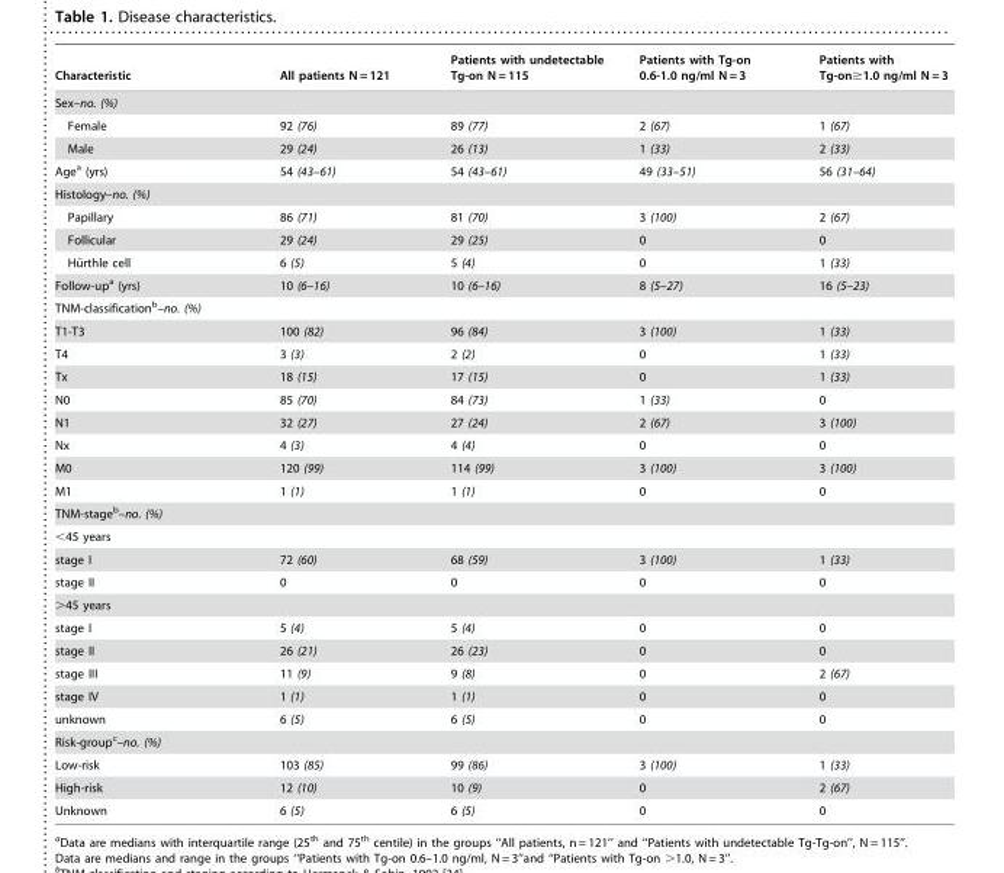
<table><thead><tr><td>Characteristic</td><td>All patients N = 121</td><td>Patients with undetectable Tg-on N = 115</td><td>Patients with Tg-on 0.6-1.0 ng/ml N = 3</td><td>Patients with Tg-on≥1.0 ng/ml N = 3</td></tr></thead><tbody><tr><td colspan="5">Sex–no. (%)</td></tr><tr><td>Female</td><td>92 (76)</td><td>89 (77)</td><td>2 (67)</td><td>1 (67)</td></tr><tr><td>Male</td><td>29 (24)</td><td>26 (13)</td><td>1 (33)</td><td>2 (33)</td></tr><tr><td>Age<sup>a</sup> (yrs)</td><td>54 (43–61)</td><td>54 (43–61)</td><td>49 (33–51)</td><td>56 (31–64)</td></tr><tr><td colspan="5">Histology–no. (%)</td></tr><tr><td>Papillary</td><td>86 (71)</td><td>81 (70)</td><td>3 (100)</td><td>2 (67)</td></tr><tr><td>Follicular</td><td>29 (24)</td><td>29 (25)</td><td>0</td><td>0</td></tr><tr><td>Hu¨rthle cell</td><td>6 (5)</td><td>5 (4)</td><td>0</td><td>1 (33)</td></tr><tr><td>Follow-up<sup>a</sup> (yrs)</td><td>10 (6–16)</td><td>10 (6–16)</td><td>8 (5–27)</td><td>16 (5–23)</td></tr><tr><td colspan="5">TNM-classification<sup>b</sup>–no. (%)</td></tr><tr><td>T1-T3</td><td>100 (82)</td><td>96 (84)</td><td>3 (100)</td><td>1 (33)</td></tr><tr><td>T4</td><td>3 (3)</td><td>2 (2)</td><td>0</td><td>1 (33)</td></tr><tr><td>Tx</td><td>18 (15)</td><td>17 (15)</td><td>0</td><td>1 (33)</td></tr><tr><td>N0</td><td>85 (70)</td><td>84 (73)</td><td>1 (33)</td><td>0</td></tr><tr><td>N1</td><td>32 (27)</td><td>27 (24)</td><td>2 (67)</td><td>3 (100)</td></tr><tr><td>Nx</td><td>4 (3)</td><td>4 (4)</td><td>0</td><td>0</td></tr><tr><td>M0</td><td>120 (99)</td><td>114 (99)</td><td>3 (100)</td><td>3 (100)</td></tr><tr><td>M1</td><td>1 (1)</td><td>1 (1)</td><td>0</td><td>0</td></tr><tr><td colspan="5">TNM-stage<sup>b</sup>–no. (%)</td></tr><tr><td colspan="5">&lt;45 years</td></tr><tr><td>stage I</td><td>72 (60)</td><td>68 (59)</td><td>3 (100)</td><td>1 (33)</td></tr><tr><td>stage II</td><td>0</td><td>0</td><td>0</td><td>0</td></tr><tr><td colspan="5">&gt;45 years</td></tr><tr><td>stage I</td><td>5 (4)</td><td>5 (4)</td><td>0</td><td>0</td></tr><tr><td>stage II</td><td>26 (21)</td><td>26 (23)</td><td>0</td><td>0</td></tr><tr><td>stage III</td><td>11 (9)</td><td>9 (8)</td><td>0</td><td>2 (67)</td></tr><tr><td>stage IV</td><td>1 (1)</td><td>1 (1)</td><td>0</td><td>0</td></tr><tr><td>unknown</td><td>6 (5)</td><td>6 (5)</td><td>0</td><td>0</td></tr><tr><td colspan="5">Risk-group<sup>c</sup>–no. (%)</td></tr><tr><td>Low-risk</td><td>103 (85)</td><td>99 (86)</td><td>3 (100)</td><td>1 (33)</td></tr><tr><td>High-risk</td><td>12 (10)</td><td>10 (9)</td><td>0</td><td>2 (67)</td></tr><tr><td>Unknown</td><td>6 (5)</td><td>6 (5)</td><td>0</td><td>0</td></tr></tbody></table>